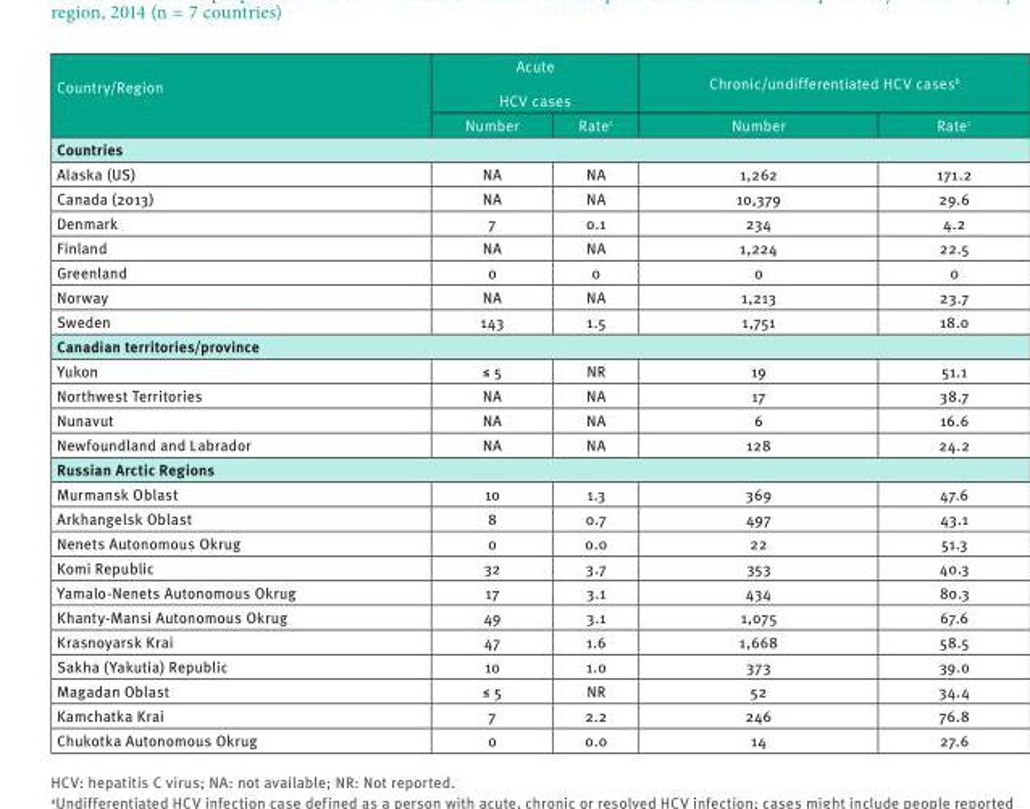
<table><thead><tr><td rowspan="2">Country/Region</td><td colspan="2">Acute HCV cases</td><td colspan="2">Chronic/undifferentiated HCV cases<sup>b</sup></td></tr><tr><td>Number</td><td>Rate<sup>c</sup></td><td>Number</td><td>Rate<sup>c</sup></td></tr></thead><tbody><tr><td colspan="5">Countries</td></tr><tr><td>Alaska (US)</td><td>NA</td><td>NA</td><td>1,262</td><td>171.2</td></tr><tr><td>Canada (2013)</td><td>NA</td><td>NA</td><td>10,379</td><td>29.6</td></tr><tr><td>Denmark</td><td>7</td><td>0.1</td><td>234</td><td>4.2</td></tr><tr><td>Finland</td><td>NA</td><td>NA</td><td>1,224</td><td>22.5</td></tr><tr><td>Greenland</td><td>0</td><td>0</td><td>0</td><td>0</td></tr><tr><td>Norway</td><td>NA</td><td>NA</td><td>1,213</td><td>23.7</td></tr><tr><td>Sweden</td><td>143</td><td>1.5</td><td>1,751</td><td>18.0</td></tr><tr><td colspan="5">Canadian territories/province</td></tr><tr><td>Yukon</td><td>≤ 5</td><td>NR</td><td>19</td><td>51.1</td></tr><tr><td>Northwest Territories</td><td>NA</td><td>NA</td><td>17</td><td>38.7</td></tr><tr><td>Nunavut</td><td>NA</td><td>NA</td><td>6</td><td>16.6</td></tr><tr><td>Newfoundland and Labrador</td><td>NA</td><td>NA</td><td>128</td><td>24.2</td></tr><tr><td colspan="5">Russian Arctic Regions</td></tr><tr><td>Murmansk Oblast</td><td>10</td><td>1.3</td><td>369</td><td>47.6</td></tr><tr><td>Arkhangelsk Oblast</td><td>8</td><td>0.7</td><td>497</td><td>43.1</td></tr><tr><td>Nenets Autonomous Okrug</td><td>0</td><td>0.0</td><td>22</td><td>51.3</td></tr><tr><td>Komi Republic</td><td>32</td><td>3.7</td><td>353</td><td>40.3</td></tr><tr><td>Yamalo-Nenets Autonomous Okrug</td><td>17</td><td>3.1</td><td>434</td><td>80.3</td></tr><tr><td>Khanty-Mansi Autonomous Okrug</td><td>49</td><td>3.1</td><td>1,075</td><td>67.6</td></tr><tr><td>Krasnoyarsk Krai</td><td>47</td><td>1.6</td><td>1,668</td><td>58.5</td></tr><tr><td>Sakha (Yakutia) Republic</td><td>10</td><td>1.0</td><td>373</td><td>39.0</td></tr><tr><td>Magadan Oblast</td><td>≤ 5</td><td>NR</td><td>52</td><td>34.4</td></tr><tr><td>Kamchatka Krai</td><td>7</td><td>2.2</td><td>246</td><td>76.8</td></tr><tr><td>Chukotka Autonomous Okrug</td><td>0</td><td>0.0</td><td>14</td><td>27.6</td></tr></tbody></table>